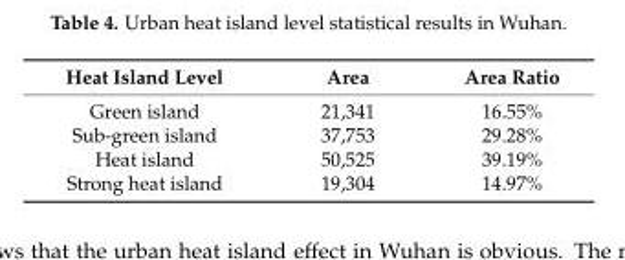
<table><thead><tr><td>Heat Island Level</td><td>Area</td><td>Area Ratio</td></tr></thead><tbody><tr><td>Green island</td><td>21,341</td><td>16.55%</td></tr><tr><td>Sub-green island</td><td>37,753</td><td>29.28%</td></tr><tr><td>Heat island</td><td>50,525</td><td>39.19%</td></tr><tr><td>Strong heat island</td><td>19,304</td><td>14.97%</td></tr></tbody></table>